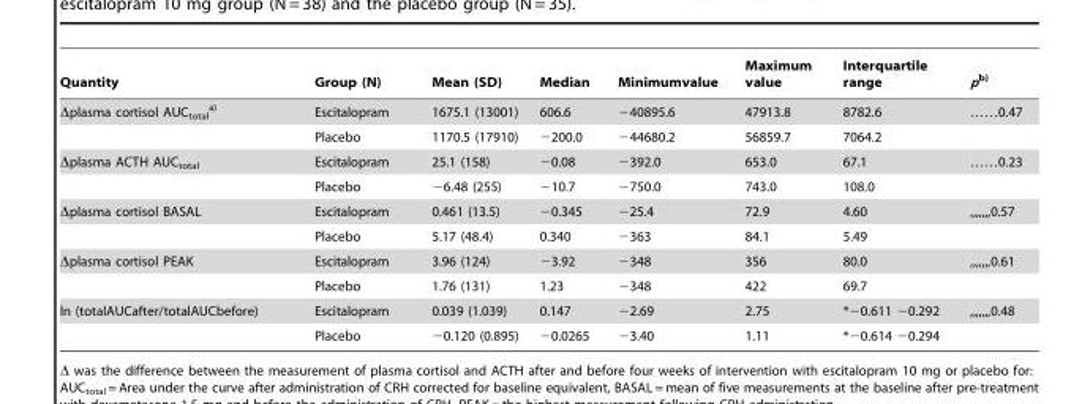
<table><thead><tr><td>Quantity</td><td>Group (N)</td><td>Mean (SD)</td><td>Median</td><td>Minimumvalue</td><td>Maximum value</td><td>Interquartile range</td><td>pb)</td></tr></thead><tbody><tr><td rowspan="2">Δplasma cortisol AUC<sub>total</sub> a)</td><td>Escitalopram</td><td>1675.1 (13001)</td><td>606.6</td><td>−40895.6</td><td>47913.8</td><td>8782.6</td><td>……0.47</td></tr><tr><td>Placebo</td><td>1170.5 (17910)</td><td>−200.0</td><td>−44680.2</td><td>56859.7</td><td>7064.2</td><td></td></tr><tr><td rowspan="2">Δplasma ACTH AUC<sub>total</sub></td><td>Escitalopram</td><td>25.1 (158)</td><td>−0.08</td><td>−392.0</td><td>653.0</td><td>67.1</td><td>……0.23</td></tr><tr><td>Placebo</td><td>−6.48 (255)</td><td>−10.7</td><td>−750.0</td><td>743.0</td><td>108.0</td><td></td></tr><tr><td rowspan="2">Δplasma cortisol BASAL</td><td>Escitalopram</td><td>0.461 (13.5)</td><td>−0.345</td><td>−25.4</td><td>72.9</td><td>4.60</td><td>,,,,,,,0.57</td></tr><tr><td>Placebo</td><td>5.17 (48.4)</td><td>0.340</td><td>−363</td><td>84.1</td><td>5.49</td><td></td></tr><tr><td rowspan="2">Δplasma cortisol PEAK</td><td>Escitalopram</td><td>3.96 (124)</td><td>−3.92</td><td>−348</td><td>356</td><td>80.0</td><td>,,,,,,,0.61</td></tr><tr><td>Placebo</td><td>1.76 (131)</td><td>1.23</td><td>−348</td><td>422</td><td>69.7</td><td></td></tr><tr><td rowspan="2">ln (totalAUCafter/totalAUCbefore)</td><td>Escitalopram</td><td>0.039 (1.039)</td><td>0.147</td><td>−2.69</td><td>2.75</td><td>*−0.611 −0.292</td><td>,,,,,,,0.48</td></tr><tr><td>Placebo</td><td>−0.120 (0.895)</td><td>−0.0265</td><td>−3.40</td><td>1.11</td><td>*−0.614 −0.294</td><td></td></tr></tbody></table>